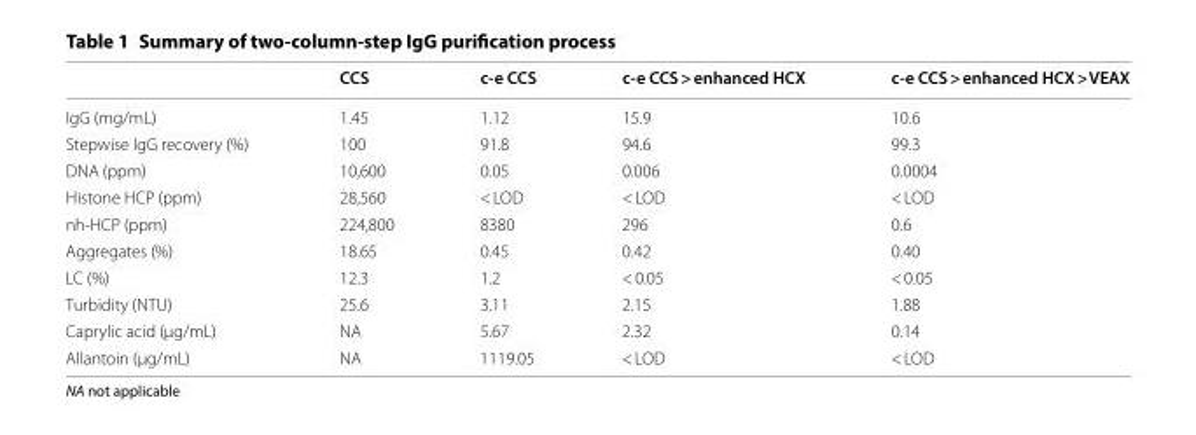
<table><thead><tr><td></td><td>CCS</td><td>c‑e CCS</td><td>c‑e CCS &gt; enhanced HCX</td><td>c‑e CCS &gt; enhanced HCX &gt; VEAX</td></tr></thead><tbody><tr><td>IgG (mg/mL)</td><td>1.45</td><td>1.12</td><td>15.9</td><td>10.6</td></tr><tr><td>Stepwise IgG recovery (%)</td><td>100</td><td>91.8</td><td>94.6</td><td>99.3</td></tr><tr><td>DNA (ppm)</td><td>10,600</td><td>0.05</td><td>0.006</td><td>0.0004</td></tr><tr><td>Histone HCP (ppm)</td><td>28,560</td><td>&lt; LOD</td><td>&lt; LOD</td><td>&lt; LOD</td></tr><tr><td>nh-HCP (ppm)</td><td>224,800</td><td>8380</td><td>296</td><td>0.6</td></tr><tr><td>Aggregates (%)</td><td>18.65</td><td>0.45</td><td>0.42</td><td>0.40</td></tr><tr><td>LC (%)</td><td>12.3</td><td>1.2</td><td>&lt; 0.05</td><td>&lt; 0.05</td></tr><tr><td>Turbidity (NTU)</td><td>25.6</td><td>3.11</td><td>2.15</td><td>1.88</td></tr><tr><td>Caprylic acid (μg/mL)</td><td>NA</td><td>5.67</td><td>2.32</td><td>0.14</td></tr><tr><td>Allantoin (μg/mL)</td><td>NA</td><td>1119.05</td><td>&lt; LOD</td><td>&lt; LOD</td></tr></tbody></table>